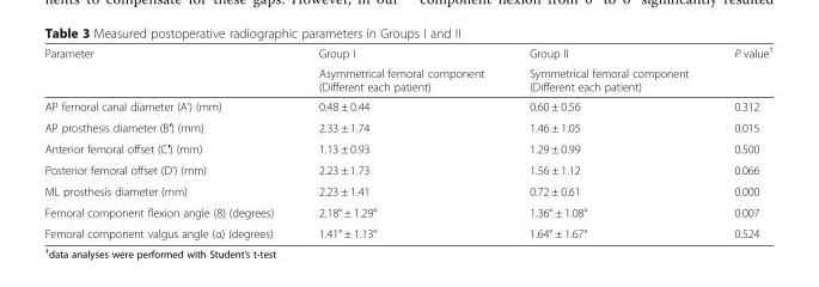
<table><thead><tr><td rowspan="2">Parameter</td><td rowspan="2">Group I Asymmetrical femoral component (Different each patient)</td><td rowspan="2">Group II Symmetrical femoral component (Different each patient)</td><td rowspan="2">P value<sup>†</sup></td></tr><tr></tr></thead><tbody><tr><td>AP femoral canal diameter (A’) (mm)</td><td>0.48 ± 0.44</td><td>0.60 ± 0.56</td><td>0.312</td></tr><tr><td>AP prosthesis diameter (B′) (mm)</td><td>2.33 ± 1.74</td><td>1.46 ± 1.05</td><td>0.015</td></tr><tr><td>Anterior femoral offset (C′) (mm)</td><td>1.13 ± 0.93</td><td>1.29 ± 0.99</td><td>0.500</td></tr><tr><td>Posterior femoral offset (D’) (mm)</td><td>2.23 ± 1.73</td><td>1.56 ± 1.12</td><td>0.066</td></tr><tr><td>ML prosthesis diameter (mm)</td><td>2.23 ± 1.41</td><td>0.72 ± 0.61</td><td>0.000</td></tr><tr><td>Femoral component flexion angle (8) (degrees)</td><td>2.18° ± 1.29°</td><td>1.36° ± 1.08°</td><td>0.007</td></tr><tr><td>Femoral component valgus angle (α) (degrees)</td><td>1.41° ± 1.13°</td><td>1.64° ± 1.67°</td><td>0.524</td></tr></tbody></table>